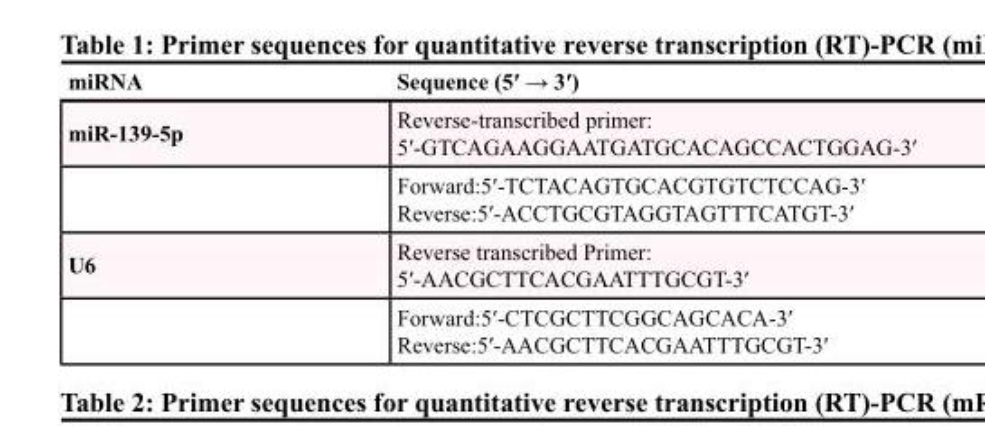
<table><thead><tr><td>miRNA</td><td>Sequence (5′ → 3′)</td></tr></thead><tbody><tr><td rowspan="2">miR-139-5p</td><td>Reverse-transcribed primer: 5′-GTCAGAAGGAATGATGCACAGCCACTGGAG-3′</td></tr><tr><td>Forward:5′-TCTACAGTGCACGTGTCTCCAG-3′ Reverse:5′-ACCTGCGTAGGTAGTTTCATGT-3′</td></tr><tr><td rowspan="2">U6</td><td>Reverse transcribed Primer: 5′-AACGCTTCACGAATTTGCGT-3′</td></tr><tr><td>Forward:5′-CTCGCTTCGGCAGCACA-3′ Reverse:5′-AACGCTTCACGAATTTGCGT-3′</td></tr></tbody></table>